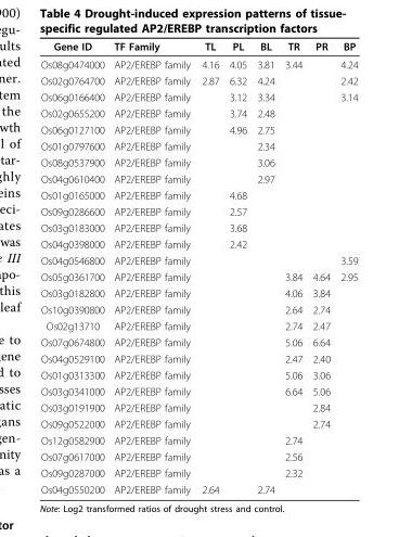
<table><thead><tr><td>Gene ID</td><td>TF Family</td><td>TL</td><td>PL</td><td>BL</td><td>TR</td><td>PR</td><td>BP</td></tr></thead><tbody><tr><td>Os08g0474000</td><td>AP2/EREBP family</td><td>4.16</td><td>4.05</td><td>3.81</td><td>3.44</td><td></td><td>4.24</td></tr><tr><td>Os02g0764700</td><td>AP2/EREBP family</td><td>2.87</td><td>6.32</td><td>4.24</td><td></td><td></td><td>2.42</td></tr><tr><td>Os06g0166400</td><td>AP2/EREBP family</td><td></td><td>3.12</td><td>3.34</td><td></td><td></td><td>3.14</td></tr><tr><td>Os02g0655200</td><td>AP2/EREBP family</td><td></td><td>3.74</td><td>2.48</td><td></td><td></td><td></td></tr><tr><td>Os06g0127100</td><td>AP2/EREBP family</td><td></td><td>4.96</td><td>2.75</td><td></td><td></td><td></td></tr><tr><td>Os01g0797600</td><td>AP2/EREBP family</td><td></td><td></td><td>2.34</td><td></td><td></td><td></td></tr><tr><td>Os08g0537900</td><td>AP2/EREBP family</td><td></td><td></td><td>3.06</td><td></td><td></td><td></td></tr><tr><td>Os04g0610400</td><td>AP2/EREBP family</td><td></td><td></td><td>2.97</td><td></td><td></td><td></td></tr><tr><td>Os01g0165000</td><td>AP2/EREBP family</td><td></td><td>4.68</td><td></td><td></td><td></td><td></td></tr><tr><td>Os09g0286600</td><td>AP2/EREBP family</td><td></td><td>2.57</td><td></td><td></td><td></td><td></td></tr><tr><td>Os03g0183000</td><td>AP2/EREBP family</td><td></td><td>3.68</td><td></td><td></td><td></td><td></td></tr><tr><td>Os04g0398000</td><td>AP2/EREBP family</td><td></td><td>2.42</td><td></td><td></td><td></td><td></td></tr><tr><td>Os04g0546800</td><td>AP2/EREBP family</td><td></td><td></td><td></td><td></td><td></td><td>3.59</td></tr><tr><td>Os05g0361700</td><td>AP2/EREBP family</td><td></td><td></td><td></td><td>3.84</td><td>4.64</td><td>2.95</td></tr><tr><td>Os03g0182800</td><td>AP2/EREBP family</td><td></td><td></td><td></td><td>4.06</td><td>3.84</td><td></td></tr><tr><td>Os10g0390800</td><td>AP2/EREBP family</td><td></td><td></td><td></td><td>2.64</td><td>2.74</td><td></td></tr><tr><td>Os02g13710</td><td>AP2/EREBP family</td><td></td><td></td><td></td><td>2.74</td><td>2.47</td><td></td></tr><tr><td>Os07g0674800</td><td>AP2/EREBP family</td><td></td><td></td><td></td><td>5.06</td><td>6.64</td><td></td></tr><tr><td>Os04g0529100</td><td>AP2/EREBP family</td><td></td><td></td><td></td><td>2.47</td><td>2.40</td><td></td></tr><tr><td>Os01g0313300</td><td>AP2/EREBP family</td><td></td><td></td><td></td><td>5.06</td><td>3.06</td><td></td></tr><tr><td>Os03g0341000</td><td>AP2/EREBP family</td><td></td><td></td><td></td><td>6.64</td><td>5.06</td><td></td></tr><tr><td>Os03g0191900</td><td>AP2/EREBP family</td><td></td><td></td><td></td><td></td><td>2.84</td><td></td></tr><tr><td>Os09g0522000</td><td>AP2/EREBP family</td><td></td><td></td><td></td><td></td><td>2.74</td><td></td></tr><tr><td>Os12g0582900</td><td>AP2/EREBP family</td><td></td><td></td><td></td><td>2.74</td><td></td><td></td></tr><tr><td>Os07g0617000</td><td>AP2/EREBP family</td><td></td><td></td><td></td><td>2.56</td><td></td><td></td></tr><tr><td>Os09g0287000</td><td>AP2/EREBP family</td><td></td><td></td><td></td><td>2.32</td><td></td><td></td></tr><tr><td>Os04g0550200</td><td>AP2/EREBP family</td><td>2.64</td><td></td><td>2.74</td><td></td><td></td><td></td></tr></tbody></table>